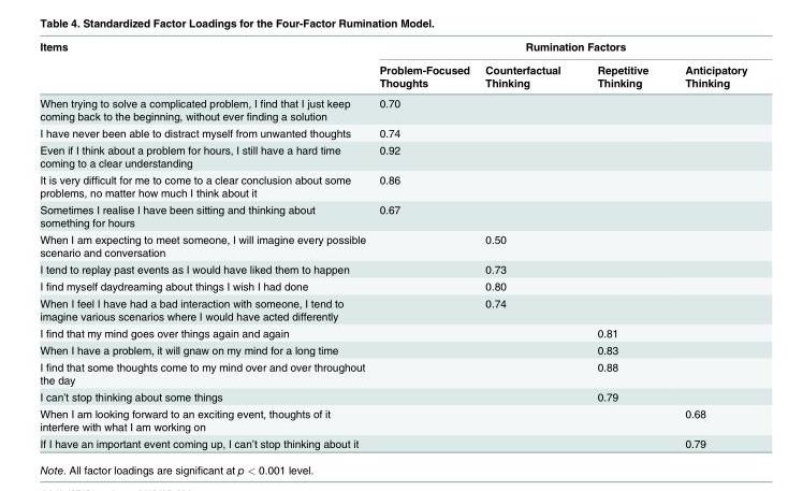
<table><thead><tr><td rowspan="2">Items</td><td colspan="4">Rumination Factors</td></tr><tr><td>Problem-Focused Thoughts</td><td>Counterfactual Thinking</td><td>Repetitive Thinking</td><td>Anticipatory Thinking</td></tr></thead><tbody><tr><td>When trying to solve a complicated problem, I find that I just keep coming back to the beginning, without ever finding a solution</td><td>0.70</td><td></td><td></td><td></td></tr><tr><td>I have never been able to distract myself from unwanted thoughts</td><td>0.74</td><td></td><td></td><td></td></tr><tr><td>Even if I think about a problem for hours, I still have a hard time coming to a clear understanding</td><td>0.92</td><td></td><td></td><td></td></tr><tr><td>It is very difficult for me to come to a clear conclusion about some problems, no matter how much I think about it</td><td>0.86</td><td></td><td></td><td></td></tr><tr><td>Sometimes I realise I have been sitting and thinking about something for hours</td><td>0.67</td><td></td><td></td><td></td></tr><tr><td>When I am expecting to meet someone, I will imagine every possible scenario and conversation</td><td></td><td>0.50</td><td></td><td></td></tr><tr><td>I tend to replay past events as I would have liked them to happen</td><td></td><td>0.73</td><td></td><td></td></tr><tr><td>I find myself daydreaming about things I wish I had done</td><td></td><td>0.80</td><td></td><td></td></tr><tr><td>When I feel I have had a bad interaction with someone, I tend to imagine various scenarios where I would have acted differently</td><td></td><td>0.74</td><td></td><td></td></tr><tr><td>I find that my mind goes over things again and again</td><td></td><td></td><td>0.81</td><td></td></tr><tr><td>When I have a problem, it will gnaw on my mind for a long time</td><td></td><td></td><td>0.83</td><td></td></tr><tr><td>I find that some thoughts come to my mind over and over throughout the day</td><td></td><td></td><td>0.88</td><td></td></tr><tr><td>I can’t stop thinking about some things</td><td></td><td></td><td>0.79</td><td></td></tr><tr><td>When I am looking forward to an exciting event, thoughts of it interfere with what I am working on</td><td></td><td></td><td></td><td>0.68</td></tr><tr><td>If I have an important event coming up, I can’t stop thinking about it</td><td></td><td></td><td></td><td>0.79</td></tr></tbody></table>